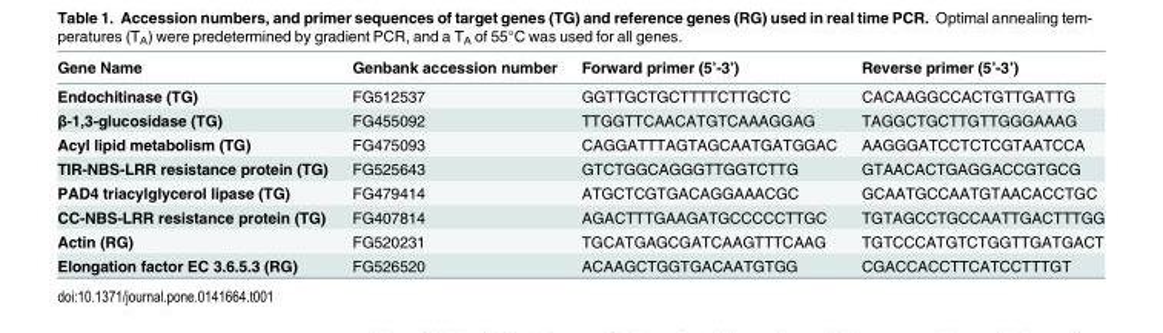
<table><thead><tr><td>Gene Name</td><td>Genbank accession number</td><td>Forward primer (5’-3’)</td><td>Reverse primer (5’-3’)</td></tr></thead><tbody><tr><td>Endochitinase (TG)</td><td>FG512537</td><td>GGTTGCTGCTTTTCTTGCTC</td><td>CACAAGGCCACTGTTGATTG</td></tr><tr><td>β-1,3-glucosidase (TG)</td><td>FG455092</td><td>TTGGTTCAACATGTCAAAGGAG</td><td>TAGGCTGCTTGTTGGGAAAG</td></tr><tr><td>Acyl lipid metabolism (TG)</td><td>FG475093</td><td>CAGGATTTAGTAGCAATGATGGAC</td><td>AAGGGATCCTCTCGTAATCCA</td></tr><tr><td>TIR-NBS-LRR resistance protein (TG)</td><td>FG525643</td><td>GTCTGGCAGGGTTGGTCTTG</td><td>GTAACACTGAGGACCGTGCG</td></tr><tr><td>PAD4 triacylglycerol lipase (TG)</td><td>FG479414</td><td>ATGCTCGTGACAGGAAACGC</td><td>GCAATGCCAATGTAACACCTGC</td></tr><tr><td>CC-NBS-LRR resistance protein (TG)</td><td>FG407814</td><td>AGACTTTGAAGATGCCCCCTTGC</td><td>TGTAGCCTGCCAATTGACTTTGG</td></tr><tr><td>Actin (RG)</td><td>FG520231</td><td>TGCATGAGCGATCAAGTTTCAAG</td><td>TGTCCCATGTCTGGTTGATGACT</td></tr><tr><td>Elongation factor EC 3.6.5.3 (RG)</td><td>FG526520</td><td>ACAAGCTGGTGACAATGTGG</td><td>CGACCACCTTCATCCTTTGT</td></tr></tbody></table>